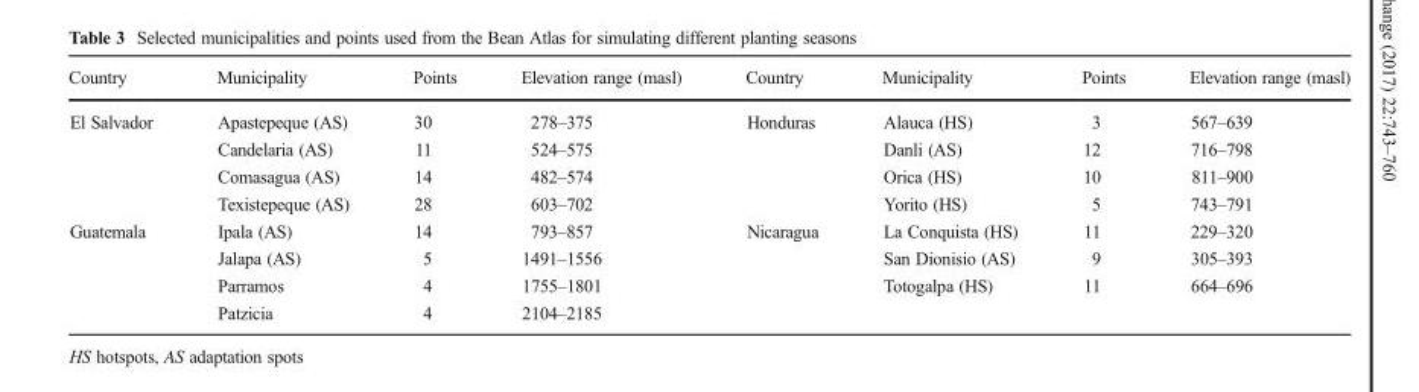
<table><thead><tr><td>Country</td><td>Municipality</td><td>Points</td><td>Elevation range (masl)</td><td>Country</td><td>Municipality</td><td>Points</td><td>Elevation range (masl)</td></tr></thead><tbody><tr><td rowspan="4">El Salvador</td><td>Apastepeque (AS)</td><td>30</td><td>278–375</td><td rowspan="4">Honduras</td><td>Alauca (HS)</td><td>3</td><td>567–639</td></tr><tr><td>Candelaria (AS)</td><td>11</td><td>524–575</td><td>Danli (AS)</td><td>12</td><td>716–798</td></tr><tr><td>Comasagua (AS)</td><td>14</td><td>482–574</td><td>Orica (HS)</td><td>10</td><td>811–900</td></tr><tr><td>Texistepeque (AS)</td><td>28</td><td>603–702</td><td>Yorito (HS)</td><td>5</td><td>743–791</td></tr><tr><td rowspan="4">Guatemala</td><td>Ipala (AS)</td><td>14</td><td>793–857</td><td rowspan="4">Nicaragua</td><td>La Conquista (HS)</td><td>11</td><td>229–320</td></tr><tr><td>Jalapa (AS)</td><td>5</td><td>1491–1556</td><td>San Dionisio (AS)</td><td>9</td><td>305–393</td></tr><tr><td>Parramos</td><td>4</td><td>1755–1801</td><td>Totogalpa (HS)</td><td>11</td><td>664–696</td></tr><tr><td>Patzicia</td><td>4</td><td>2104–2185</td><td></td><td></td><td></td></tr></tbody></table>